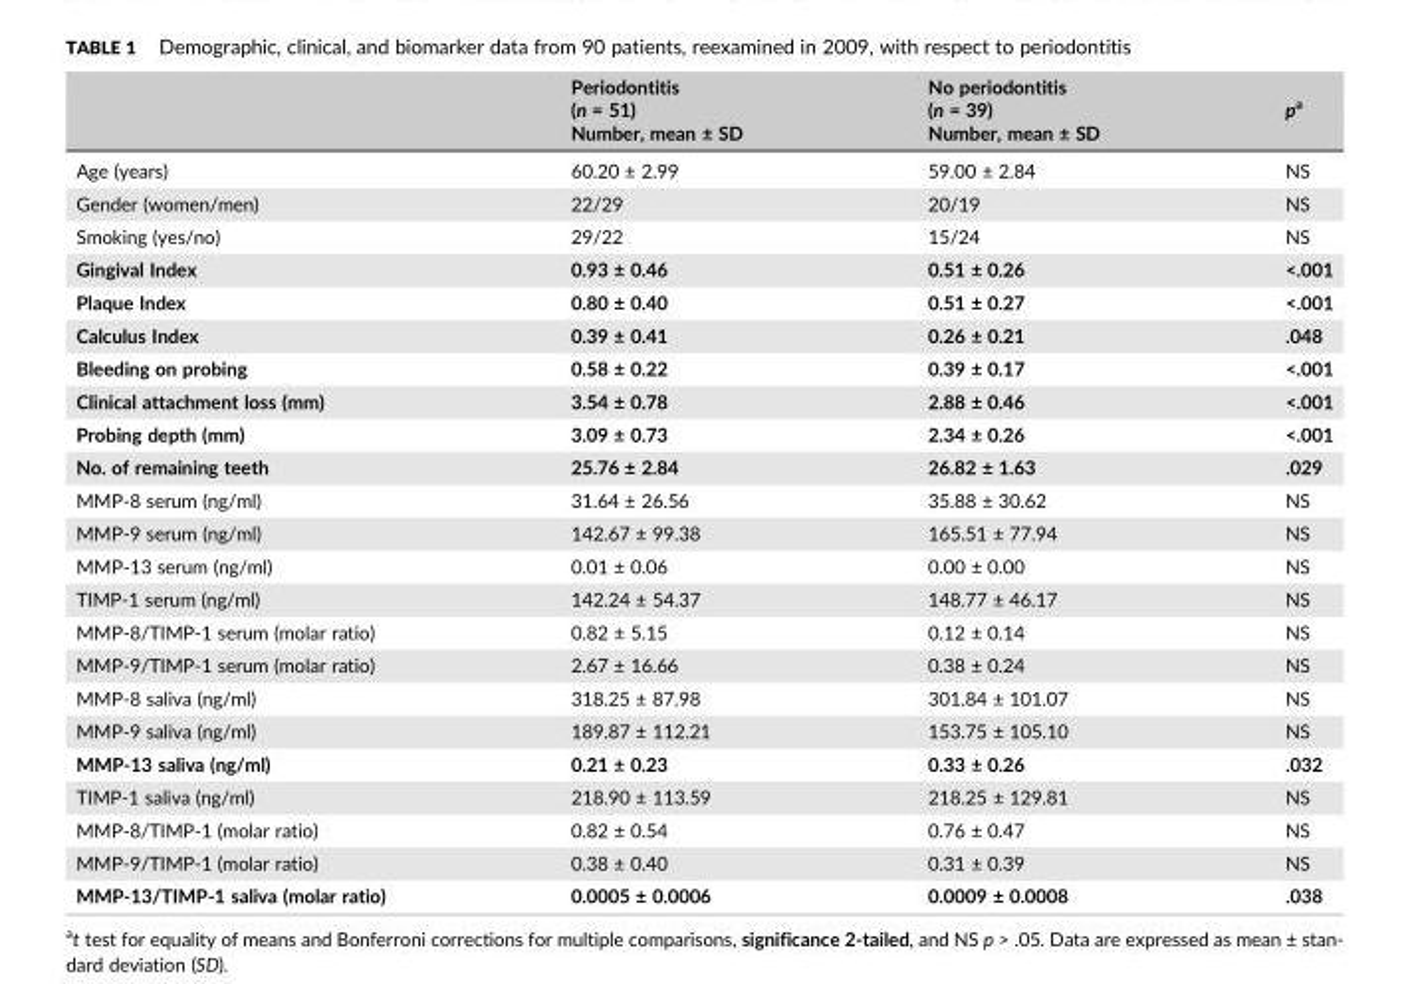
<table><thead><tr><td rowspan="2"></td><td rowspan="2">Periodontitis (n = 51) Number, mean ± SD</td><td rowspan="2">No periodontitis (n = 39) Number, mean ± SD</td><td rowspan="2">pa</td></tr><tr></tr></thead><tbody><tr><td>Age (years)</td><td>60.20 ± 2.99</td><td>59.00 ± 2.84</td><td>NS</td></tr><tr><td>Gender (women/men)</td><td>22/29</td><td>20/19</td><td>NS</td></tr><tr><td>Smoking (yes/no)</td><td>29/22</td><td>15/24</td><td>NS</td></tr><tr><td>Gingival Index</td><td>0.93 ± 0.46</td><td>0.51 ± 0.26</td><td>&lt;.001</td></tr><tr><td>Plaque Index</td><td>0.80 ± 0.40</td><td>0.51 ± 0.27</td><td>&lt;.001</td></tr><tr><td>Calculus Index</td><td>0.39 ± 0.41</td><td>0.26 ± 0.21</td><td>.048</td></tr><tr><td>Bleeding on probing</td><td>0.58 ± 0.22</td><td>0.39 ± 0.17</td><td>&lt;.001</td></tr><tr><td>Clinical attachment loss (mm)</td><td>3.54 ± 0.78</td><td>2.88 ± 0.46</td><td>&lt;.001</td></tr><tr><td>Probing depth (mm)</td><td>3.09 ± 0.73</td><td>2.34 ± 0.26</td><td>&lt;.001</td></tr><tr><td>No. of remaining teeth</td><td>25.76 ± 2.84</td><td>26.82 ± 1.63</td><td>.029</td></tr><tr><td>MMP‐8 serum (ng/ml)</td><td>31.64 ± 26.56</td><td>35.88 ± 30.62</td><td>NS</td></tr><tr><td>MMP‐9 serum (ng/ml)</td><td>142.67 ± 99.38</td><td>165.51 ± 77.94</td><td>NS</td></tr><tr><td>MMP‐13 serum (ng/ml)</td><td>0.01 ± 0.06</td><td>0.00 ± 0.00</td><td>NS</td></tr><tr><td>TIMP‐1 serum (ng/ml)</td><td>142.24 ± 54.37</td><td>148.77 ± 46.17</td><td>NS</td></tr><tr><td>MMP‐8/TIMP‐1 serum (molar ratio)</td><td>0.82 ± 5.15</td><td>0.12 ± 0.14</td><td>NS</td></tr><tr><td>MMP‐9/TIMP‐1 serum (molar ratio)</td><td>2.67 ± 16.66</td><td>0.38 ± 0.24</td><td>NS</td></tr><tr><td>MMP‐8 saliva (ng/ml)</td><td>318.25 ± 87.98</td><td>301.84 ± 101.07</td><td>NS</td></tr><tr><td>MMP‐9 saliva (ng/ml)</td><td>189.87 ± 112.21</td><td>153.75 ± 105.10</td><td>NS</td></tr><tr><td>MMP‐13 saliva (ng/ml)</td><td>0.21 ± 0.23</td><td>0.33 ± 0.26</td><td>.032</td></tr><tr><td>TIMP‐1 saliva (ng/ml)</td><td>218.90 ± 113.59</td><td>218.25 ± 129.81</td><td>NS</td></tr><tr><td>MMP‐8/TIMP‐1 (molar ratio)</td><td>0.82 ± 0.54</td><td>0.76 ± 0.47</td><td>NS</td></tr><tr><td>MMP‐9/TIMP‐1 (molar ratio)</td><td>0.38 ± 0.40</td><td>0.31 ± 0.39</td><td>NS</td></tr><tr><td>MMP‐13/TIMP‐1 saliva (molar ratio)</td><td>0.0005 ± 0.0006</td><td>0.0009 ± 0.0008</td><td>.038</td></tr></tbody></table>